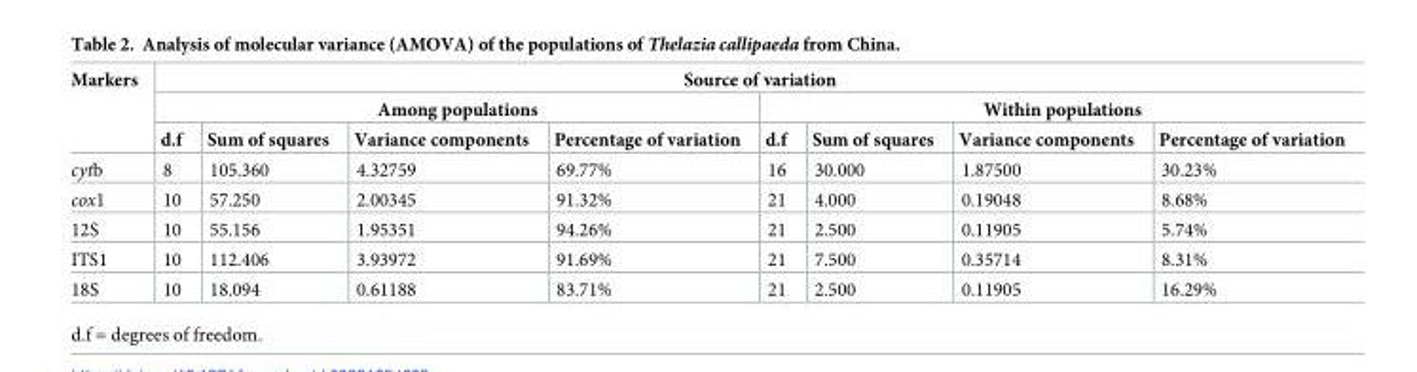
<table><thead><tr><td rowspan="3">Markers</td><td colspan="8">Source of variation</td></tr><tr><td colspan="4">Among populations</td><td colspan="4">Within populations</td></tr><tr><td>d.f</td><td>Sum of squares</td><td>Variance components</td><td>Percentage of variation</td><td>d.f</td><td>Sum of squares</td><td>Variance components</td><td>Percentage of variation</td></tr></thead><tbody><tr><td>cytb</td><td>8</td><td>105.360</td><td>4.32759</td><td>69.77%</td><td>16</td><td>30.000</td><td>1.87500</td><td>30.23%</td></tr><tr><td>cox1</td><td>10</td><td>57.250</td><td>2.00345</td><td>91.32%</td><td>21</td><td>4.000</td><td>0.19048</td><td>8.68%</td></tr><tr><td>12S</td><td>10</td><td>55.156</td><td>1.95351</td><td>94.26%</td><td>21</td><td>2.500</td><td>0.11905</td><td>5.74%</td></tr><tr><td>ITS1</td><td>10</td><td>112.406</td><td>3.93972</td><td>91.69%</td><td>21</td><td>7.500</td><td>0.35714</td><td>8.31%</td></tr><tr><td>18S</td><td>10</td><td>18.094</td><td>0.61188</td><td>83.71%</td><td>21</td><td>2.500</td><td>0.11905</td><td>16.29%</td></tr></tbody></table>